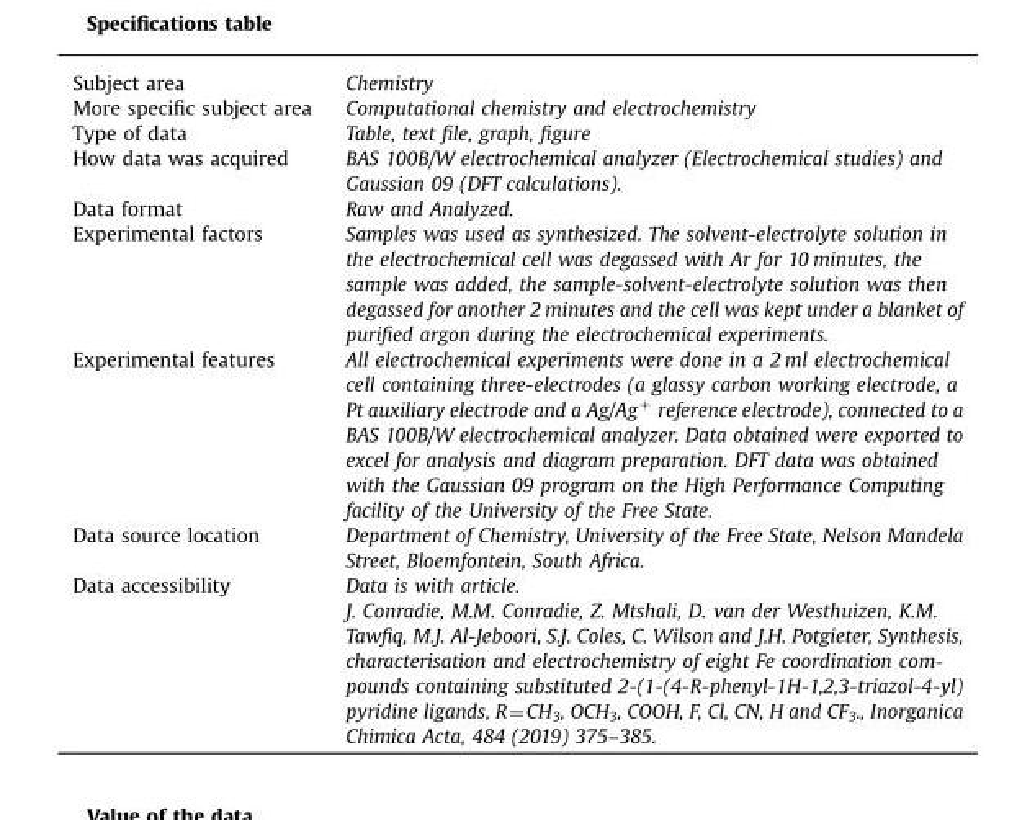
<table><tbody><tr><td>Subject area</td><td>Chemistry</td></tr><tr><td>More specific subject area</td><td>Computational chemistry and electrochemistry</td></tr><tr><td>Type of data</td><td>Table, text file, graph, figure</td></tr><tr><td>How data was acquired</td><td>BAS 100B/W electrochemical analyzer (Electrochemical studies) and Gaussian 09 (DFT calculations).</td></tr><tr><td>Data format</td><td>Raw and Analyzed.</td></tr><tr><td>Experimental factors</td><td>Samples was used as synthesized. The solvent-electrolyte solution in the electrochemical cell was degassed with Ar for 10 minutes, the sample was added, the sample-solvent-electrolyte solution was then degassed for another 2 minutes and the cell was kept under a blanket of purified argon during the electrochemical experiments.</td></tr><tr><td>Experimental features</td><td>All electrochemical experiments were done in a 2 ml electrochemical cell containing three-electrodes (a glassy carbon working electrode, a Pt auxiliary electrode and a Ag/Ag<sup>+</sup> reference electrode), connected to a BAS 100B/W electrochemical analyzer. Data obtained were exported to excel for analysis and diagram preparation. DFT data was obtained with the Gaussian 09 program on the High Performance Computing facility of the University of the Free State.</td></tr><tr><td>Data source location</td><td>Department of Chemistry, University of the Free State, Nelson Mandela Street, Bloemfontein, South Africa.</td></tr><tr><td rowspan="2">Data accessibility</td><td>Data is with article.</td></tr><tr><td>J. Conradie, M.M. Conradie, Z. Mtshali, D. van der Westhuizen, K.M. Tawfiq, M.J. Al-Jeboori, S.J. Coles, C. Wilson and J.H. Potgieter, Synthesis, characterisation and electrochemistry of eight Fe coordination com- pounds containing substituted 2-(1-(4-R-phenyl-1H-1,2,3-triazol-4-yl) pyridine ligands, R¼CH3, OCH3, COOH, F, Cl, CN, H and CF3., Inorganica Chimica Acta, 484 (2019) 375–385.</td></tr></tbody></table>